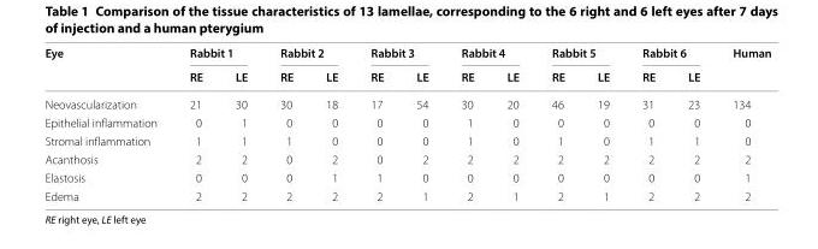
<table><thead><tr><td rowspan="2">Eye</td><td colspan="2">Rabbit 1</td><td colspan="2">Rabbit 2</td><td colspan="2">Rabbit 3</td><td colspan="2">Rabbit 4</td><td colspan="2">Rabbit 5</td><td colspan="2">Rabbit 6</td><td rowspan="2">Human</td></tr><tr><td>RE</td><td>LE</td><td>RE</td><td>LE</td><td>RE</td><td>LE</td><td>RE</td><td>LE</td><td>RE</td><td>LE</td><td>RE</td><td>LE</td></tr></thead><tbody><tr><td>Neovascularization</td><td>21</td><td>30</td><td>30</td><td>18</td><td>17</td><td>54</td><td>30</td><td>20</td><td>46</td><td>19</td><td>31</td><td>23</td><td>134</td></tr><tr><td>Epithelial inflammation</td><td>0</td><td>1</td><td>0</td><td>0</td><td>0</td><td>0</td><td>1</td><td>0</td><td>0</td><td>0</td><td>0</td><td>0</td><td>0</td></tr><tr><td>Stromal inflammation</td><td>1</td><td>1</td><td>1</td><td>0</td><td>0</td><td>0</td><td>1</td><td>0</td><td>1</td><td>0</td><td>1</td><td>1</td><td>0</td></tr><tr><td>Acanthosis</td><td>2</td><td>2</td><td>0</td><td>2</td><td>0</td><td>2</td><td>2</td><td>2</td><td>2</td><td>2</td><td>2</td><td>2</td><td>2</td></tr><tr><td>Elastosis</td><td>0</td><td>0</td><td>0</td><td>1</td><td>1</td><td>0</td><td>0</td><td>0</td><td>0</td><td>0</td><td>0</td><td>0</td><td>1</td></tr><tr><td>Edema</td><td>2</td><td>2</td><td>2</td><td>2</td><td>2</td><td>1</td><td>2</td><td>1</td><td>2</td><td>1</td><td>2</td><td>2</td><td>2</td></tr></tbody></table>